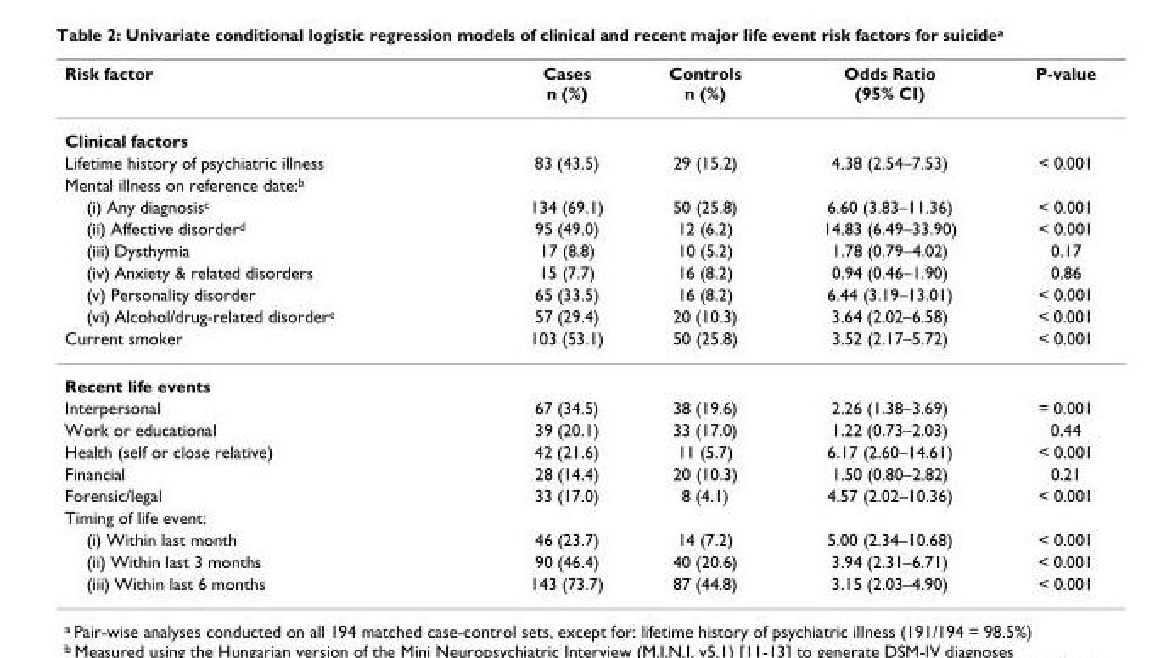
<table><thead><tr><td>Risk factor</td><td>Cases n (%)</td><td>Controls n (%)</td><td>Odds Ratio (95% CI)</td><td>P-value</td></tr></thead><tbody><tr><td colspan="5">Clinical factors</td></tr><tr><td>Lifetime history of psychiatric illness</td><td>83 (43.5)</td><td>29 (15.2)</td><td>4.38 (2.54–7.53)</td><td>&lt; 0.001</td></tr><tr><td colspan="5">Mental illness on reference date:<sup>b</sup></td></tr><tr><td>(i) Any diagnosis<sup>c</sup></td><td>134 (69.1)</td><td>50 (25.8)</td><td>6.60 (3.83–11.36)</td><td>&lt; 0.001</td></tr><tr><td>(ii) Affective disorder<sup>d</sup></td><td>95 (49.0)</td><td>12 (6.2)</td><td>14.83 (6.49–33.90)</td><td>&lt; 0.001</td></tr><tr><td>(iii) Dysthymia</td><td>17 (8.8)</td><td>10 (5.2)</td><td>1.78 (0.79–4.02)</td><td>0.17</td></tr><tr><td>(iv) Anxiety &amp; related disorders</td><td>15 (7.7)</td><td>16 (8.2)</td><td>0.94 (0.46–1.90)</td><td>0.86</td></tr><tr><td>(v) Personality disorder</td><td>65 (33.5)</td><td>16 (8.2)</td><td>6.44 (3.19–13.01)</td><td>&lt; 0.001</td></tr><tr><td>(vi) Alcohol/drug-related disorder<sup>e</sup></td><td>57 (29.4)</td><td>20 (10.3)</td><td>3.64 (2.02–6.58)</td><td>&lt; 0.001</td></tr><tr><td>Current smoker</td><td>103 (53.1)</td><td>50 (25.8)</td><td>3.52 (2.17–5.72)</td><td>&lt; 0.001</td></tr><tr><td colspan="5">Recent life events</td></tr><tr><td>Interpersonal</td><td>67 (34.5)</td><td>38 (19.6)</td><td>2.26 (1.38–3.69)</td><td>= 0.001</td></tr><tr><td>Work or educational</td><td>39 (20.1)</td><td>33 (17.0)</td><td>1.22 (0.73–2.03)</td><td>0.44</td></tr><tr><td>Health (self or close relative)</td><td>42 (21.6)</td><td>11 (5.7)</td><td>6.17 (2.60–14.61)</td><td>&lt; 0.001</td></tr><tr><td>Financial</td><td>28 (14.4)</td><td>20 (10.3)</td><td>1.50 (0.80–2.82)</td><td>0.21</td></tr><tr><td>Forensic/legal</td><td>33 (17.0)</td><td>8 (4.1)</td><td>4.57 (2.02–10.36)</td><td>&lt; 0.001</td></tr><tr><td colspan="5">Timing of life event:</td></tr><tr><td>(i) Within last month</td><td>46 (23.7)</td><td>14 (7.2)</td><td>5.00 (2.34–10.68)</td><td>&lt; 0.001</td></tr><tr><td>(ii) Within last 3 months</td><td>90 (46.4)</td><td>40 (20.6)</td><td>3.94 (2.31–6.71)</td><td>&lt; 0.001</td></tr><tr><td>(iii) Within last 6 months</td><td>143 (73.7)</td><td>87 (44.8)</td><td>3.15 (2.03–4.90)</td><td>&lt; 0.001</td></tr></tbody></table>